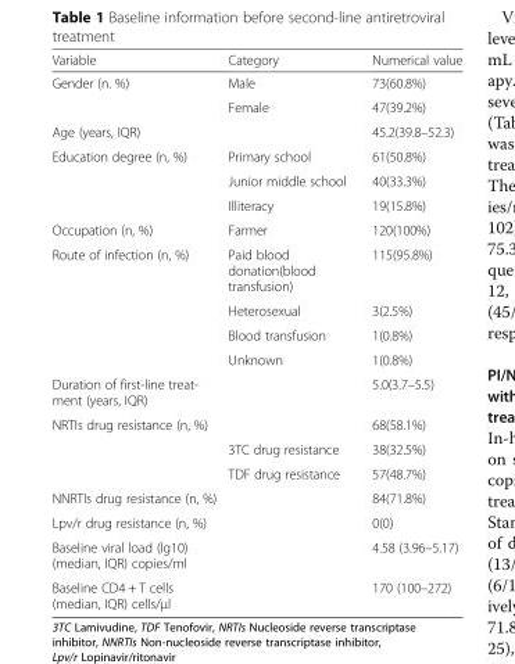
<table><thead><tr><td>Variable</td><td>Category</td><td>Numerical value</td></tr></thead><tbody><tr><td rowspan="2">Gender (n. %)</td><td>Male</td><td>73(60.8%)</td></tr><tr><td>Female</td><td>47(39.2%)</td></tr><tr><td>Age (years, IQR)</td><td></td><td>45.2(39.8–52.3)</td></tr><tr><td rowspan="3">Education degree (n, %)</td><td>Primary school</td><td>61(50.8%)</td></tr><tr><td>Junior middle school</td><td>40(33.3%)</td></tr><tr><td>Illiteracy</td><td>19(15.8%)</td></tr><tr><td>Occupation (n, %)</td><td>Farmer</td><td>120(100%)</td></tr><tr><td rowspan="4">Route of infection (n, %)</td><td>Paid blood donation(blood transfusion)</td><td>115(95.8%)</td></tr><tr><td>Heterosexual</td><td>3(2.5%)</td></tr><tr><td>Blood transfusion</td><td>1(0.8%)</td></tr><tr><td>Unknown</td><td>1(0.8%)</td></tr><tr><td>Duration of first-line treat- ment (years, IQR)</td><td></td><td>5.0(3.7–5.5)</td></tr><tr><td rowspan="3">NRTIs drug resistance (n, %)</td><td></td><td>68(58.1%)</td></tr><tr><td>3TC drug resistance</td><td>38(32.5%)</td></tr><tr><td>TDF drug resistance</td><td>57(48.7%)</td></tr><tr><td>NNRTIs drug resistance (n, %)</td><td></td><td>84(71.8%)</td></tr><tr><td>Lpv/r drug resistance (n, %)</td><td></td><td>0(0)</td></tr><tr><td>Baseline viral load (lg10) (median, IQR) copies/ml</td><td></td><td>4.58 (3.96–5.17)</td></tr><tr><td>Baseline CD4 + T cells (median, IQR) cells/μl</td><td></td><td>170 (100–272)</td></tr></tbody></table>